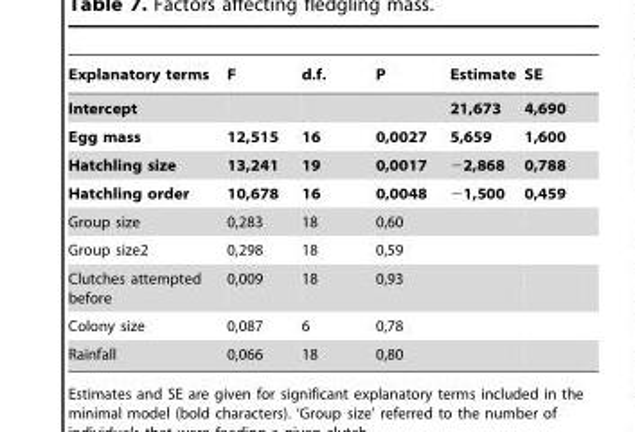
<table><thead><tr><td>Explanatory terms</td><td>F</td><td>d.f.</td><td>P</td><td>Estimate</td><td>SE</td></tr></thead><tbody><tr><td>Intercept</td><td></td><td></td><td></td><td>21,673</td><td>4,690</td></tr><tr><td>Egg mass</td><td>12,515</td><td>16</td><td>0,0027</td><td>5,659</td><td>1,600</td></tr><tr><td>Hatchling size</td><td>13,241</td><td>19</td><td>0,0017</td><td>−2,868</td><td>0,788</td></tr><tr><td>Hatchling order</td><td>10,678</td><td>16</td><td>0,0048</td><td>−1,500</td><td>0,459</td></tr><tr><td>Group size</td><td>0,283</td><td>18</td><td>0,60</td><td></td><td></td></tr><tr><td>Group size2</td><td>0,298</td><td>18</td><td>0,59</td><td></td><td></td></tr><tr><td>Clutches attempted before</td><td>0,009</td><td>18</td><td>0,93</td><td></td><td></td></tr><tr><td>Colony size</td><td>0,087</td><td>6</td><td>0,78</td><td></td><td></td></tr><tr><td>Rainfall</td><td>0,066</td><td>18</td><td>0,80</td><td></td><td></td></tr></tbody></table>